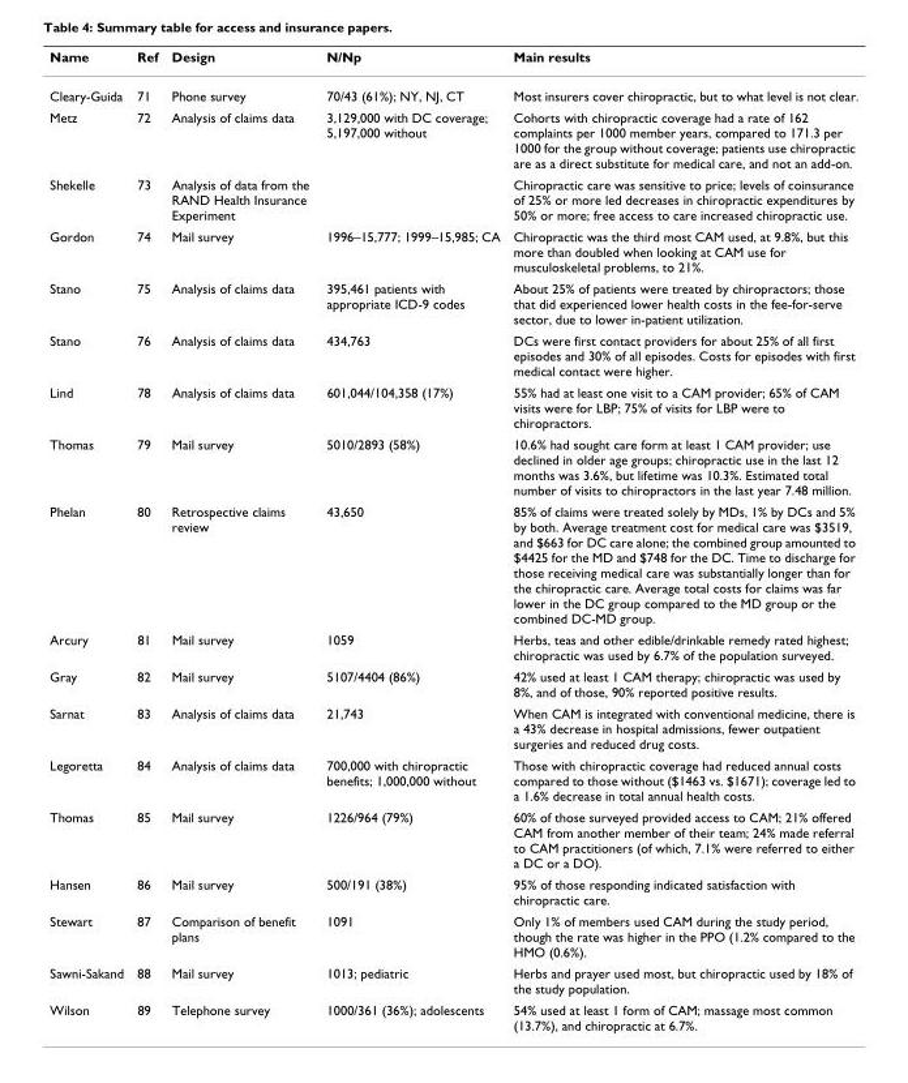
<table><thead><tr><td>Name</td><td>Ref</td><td>Design</td><td>N/Np</td><td>Main results</td></tr></thead><tbody><tr><td>Cleary-Guida</td><td>71</td><td>Phone survey</td><td>70/43 (61%); NY, NJ, CT</td><td>Most insurers cover chiropractic, but to what level is not clear.</td></tr><tr><td>Metz</td><td>72</td><td>Analysis of claims data</td><td>3,129,000 with DC coverage; 5,197,000 without</td><td>Cohorts with chiropractic coverage had a rate of 162 complaints per 1000 member years, compared to 171.3 per 1000 for the group without coverage; patients use chiropractic are as a direct substitute for medical care, and not an add-on.</td></tr><tr><td>Shekelle</td><td>73</td><td>Analysis of data from the RAND Health Insurance Experiment</td><td></td><td>Chiropractic care was sensitive to price; levels of coinsurance of 25% or more led decreases in chiropractic expenditures by 50% or more; free access to care increased chiropractic use.</td></tr><tr><td>Gordon</td><td>74</td><td>Mail survey</td><td>1996–15,777; 1999–15,985; CA</td><td>Chiropractic was the third most CAM used, at 9.8%, but this more than doubled when looking at CAM use for musculoskeletal problems, to 21%.</td></tr><tr><td>Stano</td><td>75</td><td>Analysis of claims data</td><td>395,461 patients with appropriate ICD-9 codes</td><td>About 25% of patients were treated by chiropractors; those that did experienced lower health costs in the fee-for-serve sector, due to lower in-patient utilization.</td></tr><tr><td>Stano</td><td>76</td><td>Analysis of claims data</td><td>434,763</td><td>DCs were first contact providers for about 25% of all first episodes and 30% of all episodes. Costs for episodes with first medical contact were higher.</td></tr><tr><td>Lind</td><td>78</td><td>Analysis of claims data</td><td>601,044/104,358 (17%)</td><td>55% had at least one visit to a CAM provider; 65% of CAM visits were for LBP; 75% of visits for LBP were to chiropractors.</td></tr><tr><td>Thomas</td><td>79</td><td>Mail survey</td><td>5010/2893 (58%)</td><td>10.6% had sought care form at least 1 CAM provider; use declined in older age groups; chiropractic use in the last 12 months was 3.6%, but lifetime was 10.3%. Estimated total number of visits to chiropractors in the last year 7.48 million.</td></tr><tr><td>Phelan</td><td>80</td><td>Retrospective claims review</td><td>43,650</td><td>85% of claims were treated solely by MDs, 1% by DCs and 5% by both. Average treatment cost for medical care was $3519, and $663 for DC care alone; the combined group amounted to $4425 for the MD and $748 for the DC. Time to discharge for those receiving medical care was substantially longer than for the chiropractic care. Average total costs for claims was far lower in the DC group compared to the MD group or the combined DC-MD group.</td></tr><tr><td>Arcury</td><td>81</td><td>Mail survey</td><td>1059</td><td>Herbs, teas and other edible/drinkable remedy rated highest; chiropractic was used by 6.7% of the population surveyed.</td></tr><tr><td>Gray</td><td>82</td><td>Mail survey</td><td>5107/4404 (86%)</td><td>42% used at least 1 CAM therapy; chiropractic was used by 8%, and of those, 90% reported positive results.</td></tr><tr><td>Sarnat</td><td>83</td><td>Analysis of claims data</td><td>21,743</td><td>When CAM is integrated with conventional medicine, there is a 43% decrease in hospital admissions, fewer outpatient surgeries and reduced drug costs.</td></tr><tr><td>Legoretta</td><td>84</td><td>Analysis of claims data</td><td>700,000 with chiropractic benefits; 1,000,000 without</td><td>Those with chiropractic coverage had reduced annual costs compared to those without ($1463 vs. $1671); coverage led to a 1.6% decrease in total annual health costs.</td></tr><tr><td>Thomas</td><td>85</td><td>Mail survey</td><td>1226/964 (79%)</td><td>60% of those surveyed provided access to CAM; 21% offered CAM from another member of their team; 24% made referral to CAM practitioners (of which, 7.1% were referred to either a DC or a DO).</td></tr><tr><td>Hansen</td><td>86</td><td>Mail survey</td><td>500/191 (38%)</td><td>95% of those responding indicated satisfaction with chiropractic care.</td></tr><tr><td>Stewart</td><td>87</td><td>Comparison of benefit plans</td><td>1091</td><td>Only 1% of members used CAM during the study period, though the rate was higher in the PPO (1.2% compared to the HMO (0.6%).</td></tr><tr><td>Sawni-Sakand</td><td>88</td><td>Mail survey</td><td>1013; pediatric</td><td>Herbs and prayer used most, but chiropractic used by 18% of the study population.</td></tr><tr><td>Wilson</td><td>89</td><td>Telephone survey</td><td>1000/361 (36%); adolescents</td><td>54% used at least 1 form of CAM; massage most common (13.7%), and chiropractic at 6.7%.</td></tr></tbody></table>